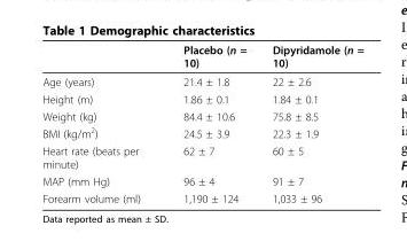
<table><thead><tr><td></td><td>Placebo (n = 10)</td><td>Dipyridamole (n = 10)</td></tr></thead><tbody><tr><td>Age (years)</td><td>21.4 ± 1.8</td><td>22 ± 2.6</td></tr><tr><td>Height (m)</td><td>1.86 ± 0.1</td><td>1.84 ± 0.1</td></tr><tr><td>Weight (kg)</td><td>84.4 ± 10.6</td><td>75.8 ± 8.5</td></tr><tr><td>BMI (kg/m<sup>2</sup>)</td><td>24.5 ± 3.9</td><td>22.3 ± 1.9</td></tr><tr><td>Heart rate (beats per minute)</td><td>62 ± 7</td><td>60 ± 5</td></tr><tr><td>MAP (mm Hg)</td><td>96 ± 4</td><td>91 ± 7</td></tr><tr><td>Forearm volume (ml)</td><td>1,190 ± 124</td><td>1,033 ± 96</td></tr></tbody></table>